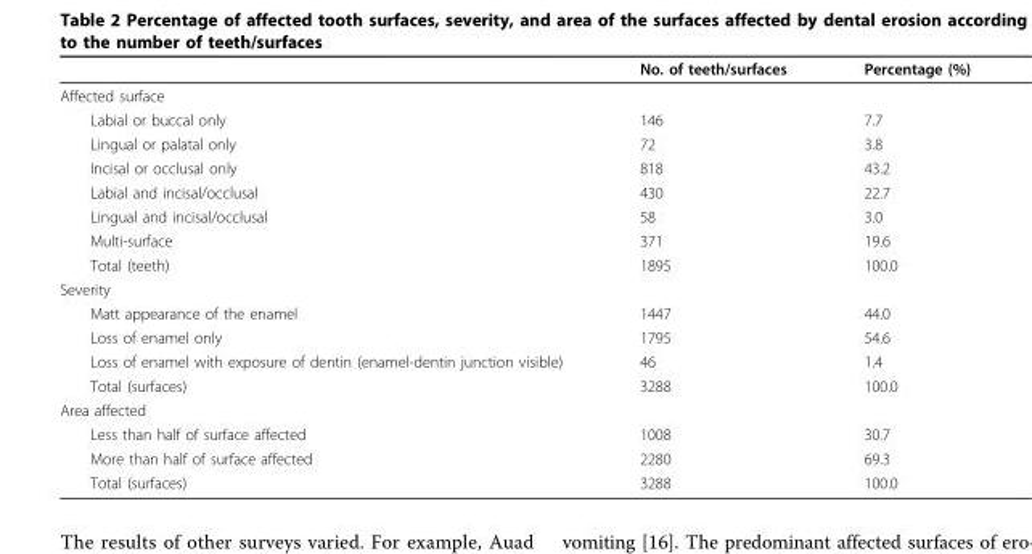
<table><thead><tr><td></td><td>No. of teeth/surfaces</td><td>Percentage (%)</td></tr></thead><tbody><tr><td colspan="3">Affected surface</td></tr><tr><td>Labial or buccal only</td><td>146</td><td>7.7</td></tr><tr><td>Lingual or palatal only</td><td>72</td><td>3.8</td></tr><tr><td>Incisal or occlusal only</td><td>818</td><td>43.2</td></tr><tr><td>Labial and incisal/occlusal</td><td>430</td><td>22.7</td></tr><tr><td>Lingual and incisal/occlusal</td><td>58</td><td>3.0</td></tr><tr><td>Multi-surface</td><td>371</td><td>19.6</td></tr><tr><td>Total (teeth)</td><td>1895</td><td>100.0</td></tr><tr><td colspan="3">Severity</td></tr><tr><td>Matt appearance of the enamel</td><td>1447</td><td>44.0</td></tr><tr><td>Loss of enamel only</td><td>1795</td><td>54.6</td></tr><tr><td>Loss of enamel with exposure of dentin (enamel-dentin junction visible)</td><td>46</td><td>1.4</td></tr><tr><td>Total (surfaces)</td><td>3288</td><td>100.0</td></tr><tr><td colspan="3">Area affected</td></tr><tr><td>Less than half of surface affected</td><td>1008</td><td>30.7</td></tr><tr><td>More than half of surface affected</td><td>2280</td><td>69.3</td></tr><tr><td>Total (surfaces)</td><td>3288</td><td>100.0</td></tr></tbody></table>